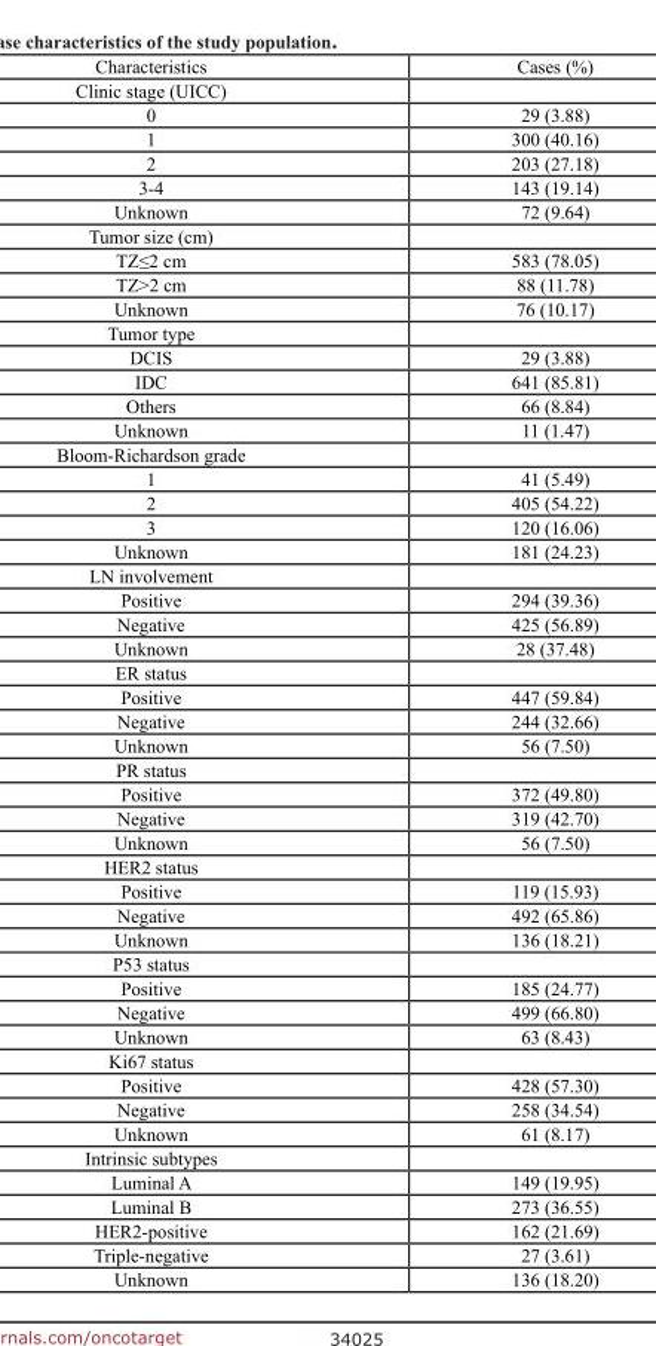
<table><thead><tr><td>Characteristics</td><td>Cases (%)</td></tr></thead><tbody><tr><td colspan="2">Clinic stage (UICC)</td></tr><tr><td>0</td><td>29 (3.88)</td></tr><tr><td>1</td><td>300 (40.16)</td></tr><tr><td>2</td><td>203 (27.18)</td></tr><tr><td>3-4</td><td>143 (19.14)</td></tr><tr><td>Unknown</td><td>72 (9.64)</td></tr><tr><td colspan="2">Tumor size (cm)</td></tr><tr><td>TZ≤2 cm</td><td>583 (78.05)</td></tr><tr><td>TZ&gt;2 cm</td><td>88 (11.78)</td></tr><tr><td>Unknown</td><td>76 (10.17)</td></tr><tr><td colspan="2">Tumor type</td></tr><tr><td>DCIS</td><td>29 (3.88)</td></tr><tr><td>IDC</td><td>641 (85.81)</td></tr><tr><td>Others</td><td>66 (8.84)</td></tr><tr><td>Unknown</td><td>11 (1.47)</td></tr><tr><td colspan="2">Bloom-Richardson grade</td></tr><tr><td>1</td><td>41 (5.49)</td></tr><tr><td>2</td><td>405 (54.22)</td></tr><tr><td>3</td><td>120 (16.06)</td></tr><tr><td>Unknown</td><td>181 (24.23)</td></tr><tr><td colspan="2">LN involvement</td></tr><tr><td>Positive</td><td>294 (39.36)</td></tr><tr><td>Negative</td><td>425 (56.89)</td></tr><tr><td>Unknown</td><td>28 (37.48)</td></tr><tr><td colspan="2">ER status</td></tr><tr><td>Positive</td><td>447 (59.84)</td></tr><tr><td>Negative</td><td>244 (32.66)</td></tr><tr><td>Unknown</td><td>56 (7.50)</td></tr><tr><td colspan="2">PR status</td></tr><tr><td>Positive</td><td>372 (49.80)</td></tr><tr><td>Negative</td><td>319 (42.70)</td></tr><tr><td>Unknown</td><td>56 (7.50)</td></tr><tr><td colspan="2">HER2 status</td></tr><tr><td>Positive</td><td>119 (15.93)</td></tr><tr><td>Negative</td><td>492 (65.86)</td></tr><tr><td>Unknown</td><td>136 (18.21)</td></tr><tr><td colspan="2">P53 status</td></tr><tr><td>Positive</td><td>185 (24.77)</td></tr><tr><td>Negative</td><td>499 (66.80)</td></tr><tr><td>Unknown</td><td>63 (8.43)</td></tr><tr><td colspan="2">Ki67 status</td></tr><tr><td>Positive</td><td>428 (57.30)</td></tr><tr><td>Negative</td><td>258 (34.54)</td></tr><tr><td>Unknown</td><td>61 (8.17)</td></tr><tr><td colspan="2">Intrinsic subtypes</td></tr><tr><td>Luminal A</td><td>149 (19.95)</td></tr><tr><td>Luminal B</td><td>273 (36.55)</td></tr><tr><td>HER2-positive</td><td>162 (21.69)</td></tr><tr><td>Triple-negative</td><td>27 (3.61)</td></tr><tr><td>Unknown</td><td>136 (18.20)</td></tr></tbody></table>